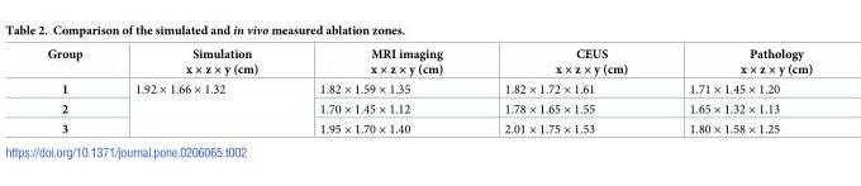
<table><thead><tr><td>Group</td><td>Simulation x × z × y (cm)</td><td>MRI imaging x × z × y (cm)</td><td>CEUS x × z × y (cm)</td><td>Pathology x × z × y (cm)</td></tr></thead><tbody><tr><td>1</td><td rowspan="3">1.92 × 1.66 × 1.32</td><td>1.82 × 1.59 × 1.35</td><td>1.82 × 1.72 × 1.61</td><td>1.71 × 1.45 × 1.20</td></tr><tr><td>2</td><td>1.70 × 1.45 × 1.12</td><td>1.78 × 1.65 × 1.55</td><td>1.65 × 1.32 × 1.13</td></tr><tr><td>3</td><td>1.95 × 1.70 × 1.40</td><td>2.01 × 1.75 × 1.53</td><td>1.80 × 1.58 × 1.25</td></tr></tbody></table>